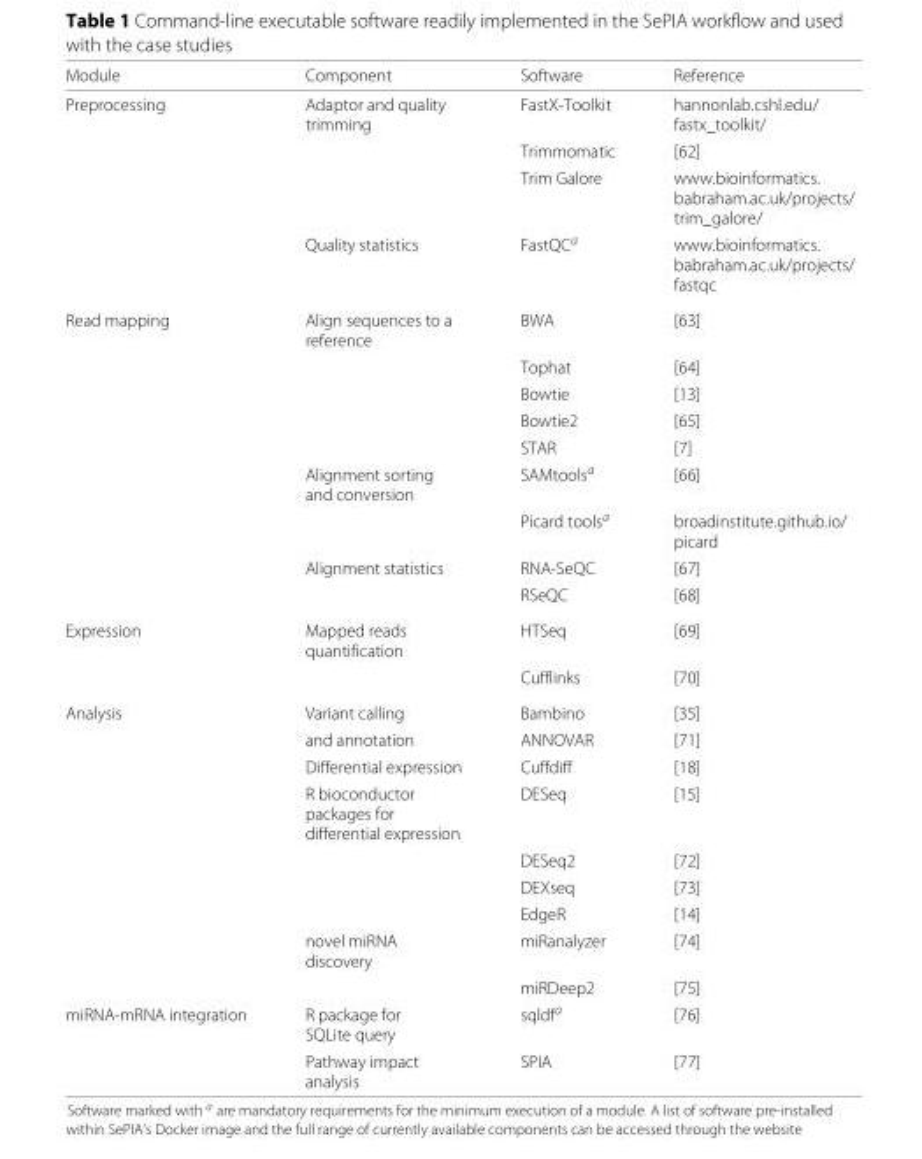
<table><thead><tr><td>Module</td><td>Component</td><td>Software</td><td>Reference</td></tr></thead><tbody><tr><td rowspan="4">Preprocessing</td><td>Adaptor and quality trimming</td><td>FastX-Toolkit</td><td>hannonlab.cshl.edu/ fastx_toolkit/</td></tr><tr><td></td><td>Trimmomatic</td><td>[62]</td></tr><tr><td></td><td>Trim Galore</td><td>www.bioinformatics. babraham.ac.uk/projects/ trim_galore/</td></tr><tr><td>Quality statistics</td><td>FastQC<sup>a</sup></td><td>www.bioinformatics. babraham.ac.uk/projects/ fastqc</td></tr><tr><td rowspan="9">Read mapping</td><td>Align sequences to a reference</td><td>BWA</td><td>[63]</td></tr><tr><td></td><td>Tophat</td><td>[64]</td></tr><tr><td></td><td>Bowtie</td><td>[13]</td></tr><tr><td></td><td>Bowtie2</td><td>[65]</td></tr><tr><td></td><td>STAR</td><td>[7]</td></tr><tr><td>Alignment sorting and conversion</td><td>SAMtools<sup>a</sup></td><td>[66]</td></tr><tr><td></td><td>Picard tools<sup>a</sup></td><td>broadinstitute.github.io/ picard</td></tr><tr><td>Alignment statistics</td><td>RNA-SeQC</td><td>[67]</td></tr><tr><td></td><td>RSeQC</td><td>[68]</td></tr><tr><td rowspan="2">Expression</td><td>Mapped reads quantification</td><td>HTSeq</td><td>[69]</td></tr><tr><td></td><td>Cufflinks</td><td>[70]</td></tr><tr><td rowspan="9">Analysis</td><td>Variant calling</td><td>Bambino</td><td>[35]</td></tr><tr><td>and annotation</td><td>ANNOVAR</td><td>[71]</td></tr><tr><td>Differential expression</td><td>Cuffdiff</td><td>[18]</td></tr><tr><td>R bioconductor packages for differential expression</td><td>DESeq</td><td>[15]</td></tr><tr><td></td><td>DESeq2</td><td>[72]</td></tr><tr><td></td><td>DEXseq</td><td>[73]</td></tr><tr><td></td><td>EdgeR</td><td>[14]</td></tr><tr><td>novel miRNA discovery</td><td>miRanalyzer</td><td>[74]</td></tr><tr><td></td><td>miRDeep2</td><td>[75]</td></tr><tr><td rowspan="2">miRNA-mRNA integration</td><td>R package for SQLite query</td><td>sqldf<sup>a</sup></td><td>[76]</td></tr><tr><td>Pathway impact analysis</td><td>SPIA</td><td>[77]</td></tr></tbody></table>